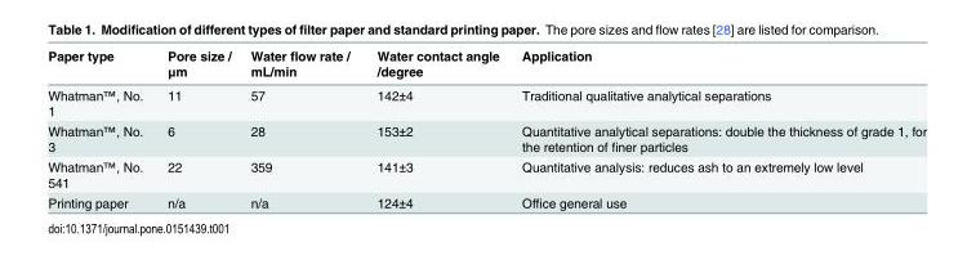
<table><thead><tr><td>Paper type</td><td>Pore size / μm</td><td>Water flow rate / mL/min</td><td>Water contact angle /degree</td><td>Application</td></tr></thead><tbody><tr><td>Whatman<sup>™</sup>, No. 1</td><td>11</td><td>57</td><td>142±4</td><td>Traditional qualitative analytical separations</td></tr><tr><td>Whatman<sup>™</sup>, No. 3</td><td>6</td><td>28</td><td>153±2</td><td>Quantitative analytical separations: double the thickness of grade 1, for the retention of finer particles</td></tr><tr><td>Whatman<sup>™</sup>, No. 541</td><td>22</td><td>359</td><td>141±3</td><td>Quantitative analysis: reduces ash to an extremely low level</td></tr><tr><td>Printing paper</td><td>n/a</td><td>n/a</td><td>124±4</td><td>Office general use</td></tr></tbody></table>